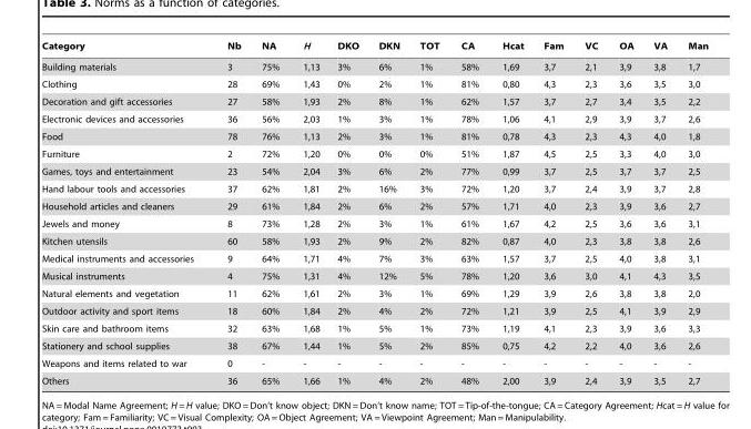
<table><thead><tr><td>Category</td><td>Nb</td><td>NA</td><td>H</td><td>DKO</td><td>DKN</td><td>TOT</td><td>CA</td><td>Hcat</td><td>Fam</td><td>VC</td><td>OA</td><td>VA</td><td>Man</td></tr></thead><tbody><tr><td>Building materials</td><td>3</td><td>75%</td><td>1,13</td><td>3%</td><td>6%</td><td>1%</td><td>58%</td><td>1,69</td><td>3,7</td><td>2,1</td><td>3,9</td><td>3,8</td><td>1,7</td></tr><tr><td>Clothing</td><td>28</td><td>69%</td><td>1,43</td><td>0%</td><td>2%</td><td>1%</td><td>81%</td><td>0,80</td><td>4,3</td><td>2,3</td><td>3,6</td><td>3,5</td><td>3,0</td></tr><tr><td>Decoration and gift accessories</td><td>27</td><td>58%</td><td>1,93</td><td>2%</td><td>8%</td><td>1%</td><td>62%</td><td>1,57</td><td>3,7</td><td>2,7</td><td>3,4</td><td>3,5</td><td>2,2</td></tr><tr><td>Electronic devices and accessories</td><td>36</td><td>56%</td><td>2,03</td><td>1%</td><td>3%</td><td>1%</td><td>78%</td><td>1,06</td><td>4,1</td><td>2,9</td><td>3,9</td><td>3,7</td><td>2,6</td></tr><tr><td>Food</td><td>78</td><td>76%</td><td>1,13</td><td>2%</td><td>3%</td><td>1%</td><td>81%</td><td>0,78</td><td>4,3</td><td>2,3</td><td>4,3</td><td>4,0</td><td>1,8</td></tr><tr><td>Furniture</td><td>2</td><td>72%</td><td>1,20</td><td>0%</td><td>0%</td><td>0%</td><td>51%</td><td>1,87</td><td>4,5</td><td>2,5</td><td>3,3</td><td>4,0</td><td>3,0</td></tr><tr><td>Games, toys and entertainment</td><td>23</td><td>54%</td><td>2,04</td><td>3%</td><td>6%</td><td>2%</td><td>77%</td><td>0,99</td><td>3,7</td><td>2,5</td><td>3,7</td><td>3,7</td><td>2,5</td></tr><tr><td>Hand labour tools and accessories</td><td>37</td><td>62%</td><td>1,81</td><td>2%</td><td>16%</td><td>3%</td><td>72%</td><td>1,20</td><td>3,7</td><td>2,4</td><td>3,9</td><td>3,7</td><td>2,8</td></tr><tr><td>Household articles and cleaners</td><td>29</td><td>61%</td><td>1,84</td><td>2%</td><td>6%</td><td>2%</td><td>57%</td><td>1,71</td><td>4,0</td><td>2,3</td><td>3,9</td><td>3,6</td><td>2,7</td></tr><tr><td>Jewels and money</td><td>8</td><td>73%</td><td>1,28</td><td>2%</td><td>3%</td><td>1%</td><td>61%</td><td>1,67</td><td>4,2</td><td>2,5</td><td>3,6</td><td>3,6</td><td>3,1</td></tr><tr><td>Kitchen utensils</td><td>60</td><td>58%</td><td>1,93</td><td>2%</td><td>9%</td><td>2%</td><td>82%</td><td>0,87</td><td>4,0</td><td>2,3</td><td>3,8</td><td>3,8</td><td>2,6</td></tr><tr><td>Medical instruments and accessories</td><td>9</td><td>64%</td><td>1,71</td><td>4%</td><td>7%</td><td>3%</td><td>63%</td><td>1,57</td><td>3,7</td><td>2,5</td><td>4,0</td><td>3,8</td><td>3,1</td></tr><tr><td>Musical instruments</td><td>4</td><td>75%</td><td>1,31</td><td>4%</td><td>12%</td><td>5%</td><td>78%</td><td>1,20</td><td>3,6</td><td>3,0</td><td>4,1</td><td>4,3</td><td>3,5</td></tr><tr><td>Natural elements and vegetation</td><td>11</td><td>62%</td><td>1,61</td><td>2%</td><td>3%</td><td>1%</td><td>69%</td><td>1,29</td><td>3,9</td><td>2,6</td><td>3,8</td><td>3,8</td><td>2,0</td></tr><tr><td>Outdoor activity and sport items</td><td>18</td><td>60%</td><td>1,84</td><td>2%</td><td>4%</td><td>2%</td><td>72%</td><td>1,21</td><td>3,9</td><td>2,5</td><td>4,1</td><td>3,9</td><td>2,9</td></tr><tr><td>Skin care and bathroom items</td><td>32</td><td>63%</td><td>1,68</td><td>1%</td><td>5%</td><td>1%</td><td>73%</td><td>1,19</td><td>4,1</td><td>2,3</td><td>3,9</td><td>3,6</td><td>3,3</td></tr><tr><td>Stationery and school supplies</td><td>38</td><td>67%</td><td>1,44</td><td>1%</td><td>5%</td><td>2%</td><td>85%</td><td>0,75</td><td>4,2</td><td>2,2</td><td>4,0</td><td>3,6</td><td>2,6</td></tr><tr><td>Weapons and items related to war</td><td>0</td><td>-</td><td>-</td><td>-</td><td>-</td><td>-</td><td>-</td><td>-</td><td>-</td><td>-</td><td>-</td><td>-</td><td>-</td></tr><tr><td>Others</td><td>36</td><td>65%</td><td>1,66</td><td>1%</td><td>4%</td><td>2%</td><td>48%</td><td>2,00</td><td>3,9</td><td>2,4</td><td>3,9</td><td>3,5</td><td>2,7</td></tr></tbody></table>